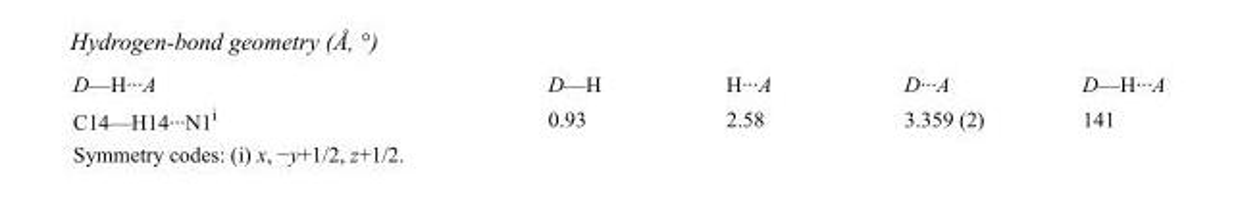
<table><tbody><tr><td>D—H···A</td><td>D—H</td><td>H···A</td><td>D···A</td><td>D—H···A</td></tr><tr><td>C14—H14···N1<sup>i</sup></td><td>0.93</td><td>2.58</td><td>3.359 (2)</td><td>141</td></tr></tbody></table>